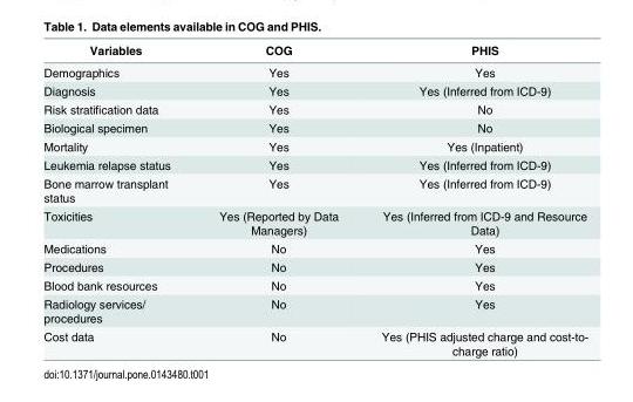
<table><thead><tr><td>Variables</td><td>COG</td><td>PHIS</td></tr></thead><tbody><tr><td>Demographics</td><td>Yes</td><td>Yes</td></tr><tr><td>Diagnosis</td><td>Yes</td><td>Yes (Inferred from ICD-9)</td></tr><tr><td>Risk stratification data</td><td>Yes</td><td>No</td></tr><tr><td>Biological specimen</td><td>Yes</td><td>No</td></tr><tr><td>Mortality</td><td>Yes</td><td>Yes (Inpatient)</td></tr><tr><td>Leukemia relapse status</td><td>Yes</td><td>Yes (Inferred from ICD-9)</td></tr><tr><td>Bone marrow transplant status</td><td>Yes</td><td>Yes (Inferred from ICD-9)</td></tr><tr><td>Toxicities</td><td>Yes (Reported by Data Managers)</td><td>Yes (Inferred from ICD-9 and Resource Data)</td></tr><tr><td>Medications</td><td>No</td><td>Yes</td></tr><tr><td>Procedures</td><td>No</td><td>Yes</td></tr><tr><td>Blood bank resources</td><td>No</td><td>Yes</td></tr><tr><td>Radiology services/ procedures</td><td>No</td><td>Yes</td></tr><tr><td>Cost data</td><td>No</td><td>Yes (PHIS adjusted charge and cost-to- charge ratio)</td></tr></tbody></table>